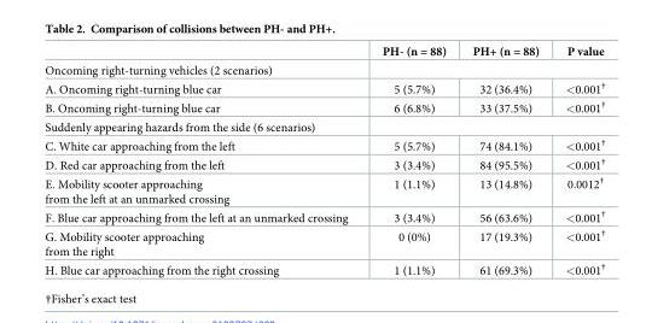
<table><thead><tr><td></td><td>PH- (n = 88)</td><td>PH+ (n = 88)</td><td>P value</td></tr></thead><tbody><tr><td colspan="4">Oncoming right-turning vehicles (2 scenarios)</td></tr><tr><td>A. Oncoming right-turning blue car</td><td>5 (5.7%)</td><td>32 (36.4%)</td><td>&lt;0.001<sup>†</sup></td></tr><tr><td>B. Oncoming right-turning blue car</td><td>6 (6.8%)</td><td>33 (37.5%)</td><td>&lt;0.001<sup>†</sup></td></tr><tr><td colspan="4">Suddenly appearing hazards from the side (6 scenarios)</td></tr><tr><td>C. White car approaching from the left</td><td>5 (5.7%)</td><td>74 (84.1%)</td><td>&lt;0.001<sup>†</sup></td></tr><tr><td>D. Red car approaching from the left</td><td>3 (3.4%)</td><td>84 (95.5%)</td><td>&lt;0.001<sup>†</sup></td></tr><tr><td>E. Mobility scooter approaching from the left at an unmarked crossing</td><td>1 (1.1%)</td><td>13 (14.8%)</td><td>0.0012<sup>†</sup></td></tr><tr><td>F. Blue car approaching from the left at an unmarked crossing</td><td>3 (3.4%)</td><td>56 (63.6%)</td><td>&lt;0.001<sup>†</sup></td></tr><tr><td>G. Mobility scooter approaching from the right</td><td>0 (0%)</td><td>17 (19.3%)</td><td>&lt;0.001<sup>†</sup></td></tr><tr><td>H. Blue car approaching from the right crossing</td><td>1 (1.1%)</td><td>61 (69.3%)</td><td>&lt;0.001<sup>†</sup></td></tr></tbody></table>